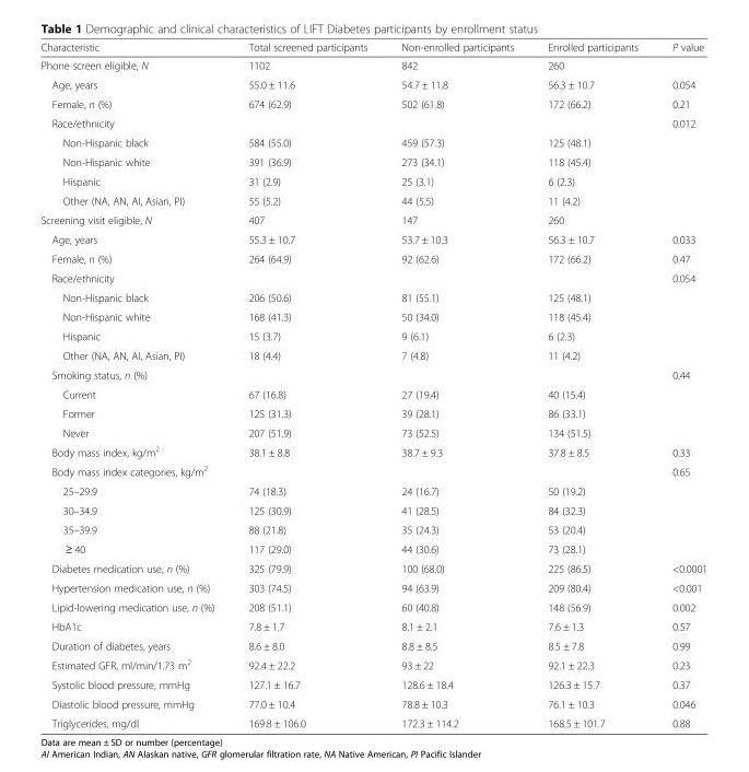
<table><thead><tr><td>Characteristic</td><td>Total screened participants</td><td>Non-enrolled participants</td><td>Enrolled participants</td><td>P value</td></tr></thead><tbody><tr><td>Phone screen eligible, N</td><td>1102</td><td>842</td><td>260</td><td></td></tr><tr><td>Age, years</td><td>55.0 ± 11.6</td><td>54.7 ± 11.8</td><td>56.3 ± 10.7</td><td>0.054</td></tr><tr><td>Female, n (%)</td><td>674 (62.9)</td><td>502 (61.8)</td><td>172 (66.2)</td><td>0.21</td></tr><tr><td>Race/ethnicity</td><td></td><td></td><td></td><td>0.012</td></tr><tr><td>Non-Hispanic black</td><td>584 (55.0)</td><td>459 (57.3)</td><td>125 (48.1)</td><td></td></tr><tr><td>Non-Hispanic white</td><td>391 (36.9)</td><td>273 (34.1)</td><td>118 (45.4)</td><td></td></tr><tr><td>Hispanic</td><td>31 (2.9)</td><td>25 (3.1)</td><td>6 (2.3)</td><td></td></tr><tr><td>Other (NA, AN, AI, Asian, PI)</td><td>55 (5.2)</td><td>44 (5.5)</td><td>11 (4.2)</td><td></td></tr><tr><td>Screening visit eligible, N</td><td>407</td><td>147</td><td>260</td><td></td></tr><tr><td>Age, years</td><td>55.3 ± 10.7</td><td>53.7 ± 10.3</td><td>56.3 ± 10.7</td><td>0.033</td></tr><tr><td>Female, n (%)</td><td>264 (64.9)</td><td>92 (62.6)</td><td>172 (66.2)</td><td>0.47</td></tr><tr><td>Race/ethnicity</td><td></td><td></td><td></td><td>0.054</td></tr><tr><td>Non-Hispanic black</td><td>206 (50.6)</td><td>81 (55.1)</td><td>125 (48.1)</td><td></td></tr><tr><td>Non-Hispanic white</td><td>168 (41.3)</td><td>50 (34.0)</td><td>118 (45.4)</td><td></td></tr><tr><td>Hispanic</td><td>15 (3.7)</td><td>9 (6.1)</td><td>6 (2.3)</td><td></td></tr><tr><td>Other (NA, AN, AI, Asian, PI)</td><td>18 (4.4)</td><td>7 (4.8)</td><td>11 (4.2)</td><td></td></tr><tr><td>Smoking status, n (%)</td><td></td><td></td><td></td><td>0.44</td></tr><tr><td>Current</td><td>67 (16.8)</td><td>27 (19.4)</td><td>40 (15.4)</td><td></td></tr><tr><td>Former</td><td>125 (31.3)</td><td>39 (28.1)</td><td>86 (33.1)</td><td></td></tr><tr><td>Never</td><td>207 (51.9)</td><td>73 (52.5)</td><td>134 (51.5)</td><td></td></tr><tr><td>Body mass index, kg/m<sup>2</sup></td><td>38.1 ± 8.8</td><td>38.7 ± 9.3</td><td>37.8 ± 8.5</td><td>0.33</td></tr><tr><td>Body mass index categories, kg/m<sup>2</sup></td><td></td><td></td><td></td><td>0.65</td></tr><tr><td>25–29.9</td><td>74 (18.3)</td><td>24 (16.7)</td><td>50 (19.2)</td><td></td></tr><tr><td>30–34.9</td><td>125 (30.9)</td><td>41 (28.5)</td><td>84 (32.3)</td><td></td></tr><tr><td>35–39.9</td><td>88 (21.8)</td><td>35 (24.3)</td><td>53 (20.4)</td><td></td></tr><tr><td>≥ 40</td><td>117 (29.0)</td><td>44 (30.6)</td><td>73 (28.1)</td><td></td></tr><tr><td>Diabetes medication use, n (%)</td><td>325 (79.9)</td><td>100 (68.0)</td><td>225 (86.5)</td><td>&lt;0.0001</td></tr><tr><td>Hypertension medication use, n (%)</td><td>303 (74.5)</td><td>94 (63.9)</td><td>209 (80.4)</td><td>&lt;0.001</td></tr><tr><td>Lipid-lowering medication use, n (%)</td><td>208 (51.1)</td><td>60 (40.8)</td><td>148 (56.9)</td><td>0.002</td></tr><tr><td>HbA1c</td><td>7.8 ± 1.7</td><td>8.1 ± 2.1</td><td>7.6 ± 1.3</td><td>0.57</td></tr><tr><td>Duration of diabetes, years</td><td>8.6 ± 8.0</td><td>8.8 ± 8.5</td><td>8.5 ± 7.8</td><td>0.99</td></tr><tr><td>Estimated GFR, ml/min/1.73 m<sup>2</sup></td><td>92.4 ± 22.2</td><td>93 ± 22</td><td>92.1 ± 22.3</td><td>0.23</td></tr><tr><td>Systolic blood pressure, mmHg</td><td>127.1 ± 16.7</td><td>128.6 ± 18.4</td><td>126.3 ± 15.7</td><td>0.37</td></tr><tr><td>Diastolic blood pressure, mmHg</td><td>77.0 ± 10.4</td><td>78.8 ± 10.3</td><td>76.1 ± 10.3</td><td>0.046</td></tr><tr><td>Triglycerides, mg/dl</td><td>169.8 ± 106.0</td><td>172.3 ± 114.2</td><td>168.5 ± 101.7</td><td>0.88</td></tr></tbody></table>